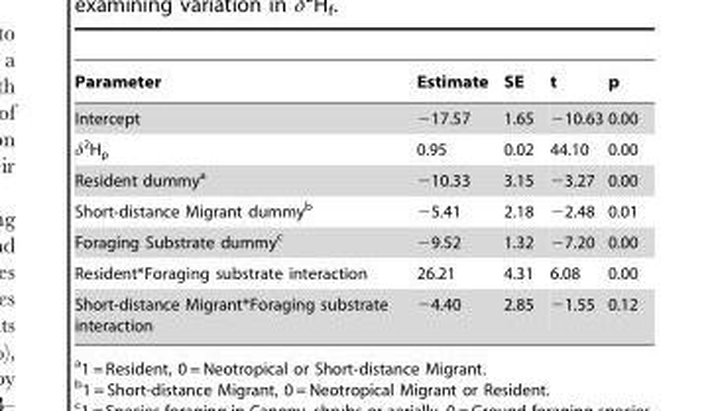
<table><thead><tr><td>Parameter</td><td>Estimate</td><td>SE</td><td>t</td><td>p</td></tr></thead><tbody><tr><td>Intercept</td><td>−17.57</td><td>1.65</td><td>−10.63</td><td>0.00</td></tr><tr><td>δ<sup>2</sup>H<sub>p</sub></td><td>0.95</td><td>0.02</td><td>44.10</td><td>0.00</td></tr><tr><td>Resident dummy<sup>a</sup></td><td>−10.33</td><td>3.15</td><td>−3.27</td><td>0.00</td></tr><tr><td>Short-distance Migrant dummy<sup>b</sup></td><td>−5.41</td><td>2.18</td><td>−2.48</td><td>0.01</td></tr><tr><td>Foraging Substrate dummy<sup>c</sup></td><td>−9.52</td><td>1.32</td><td>−7.20</td><td>0.00</td></tr><tr><td>Resident*Foraging substrate interaction</td><td>26.21</td><td>4.31</td><td>6.08</td><td>0.00</td></tr><tr><td>Short-distance Migrant*Foraging substrate interaction</td><td>−4.40</td><td>2.85</td><td>−1.55</td><td>0.12</td></tr></tbody></table>